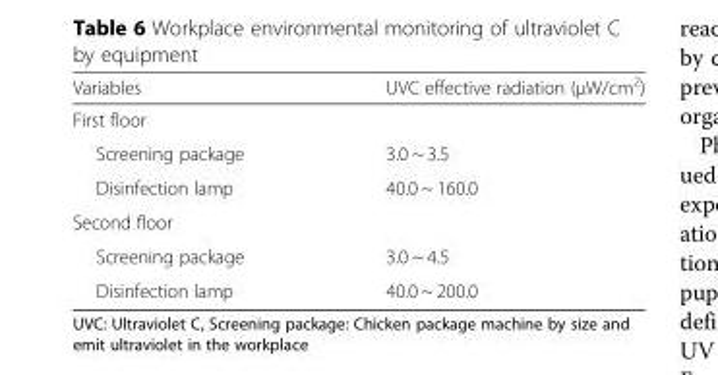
<table><thead><tr><td>Variables</td><td>UVC effective radiation (μW/cm<sup>2</sup>)</td></tr></thead><tbody><tr><td colspan="2">First floor</td></tr><tr><td>Screening package</td><td>3.0 ~ 3.5</td></tr><tr><td>Disinfection lamp</td><td>40.0 ~ 160.0</td></tr><tr><td colspan="2">Second floor</td></tr><tr><td>Screening package</td><td>3.0 ~ 4.5</td></tr><tr><td>Disinfection lamp</td><td>40.0 ~ 200.0</td></tr></tbody></table>